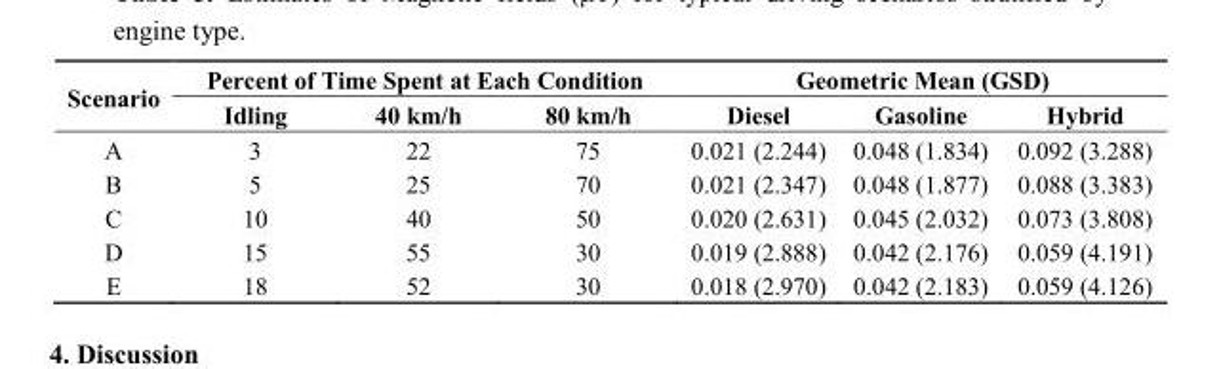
<table><thead><tr><td rowspan="2">Scenario</td><td colspan="3">Percent of Time Spent at Each Condition</td><td colspan="3">Geometric Mean (GSD)</td></tr><tr><td>Idling</td><td>40 km/h</td><td>80 km/h</td><td>Diesel</td><td>Gasoline</td><td>Hybrid</td></tr></thead><tbody><tr><td>A</td><td>3</td><td>22</td><td>75</td><td>0.021 (2.244)</td><td>0.048 (1.834)</td><td>0.092 (3.288)</td></tr><tr><td>B</td><td>5</td><td>25</td><td>70</td><td>0.021 (2.347)</td><td>0.048 (1.877)</td><td>0.088 (3.383)</td></tr><tr><td>C</td><td>10</td><td>40</td><td>50</td><td>0.020 (2.631)</td><td>0.045 (2.032)</td><td>0.073 (3.808)</td></tr><tr><td>D</td><td>15</td><td>55</td><td>30</td><td>0.019 (2.888)</td><td>0.042 (2.176)</td><td>0.059 (4.191)</td></tr><tr><td>E</td><td>18</td><td>52</td><td>30</td><td>0.018 (2.970)</td><td>0.042 (2.183)</td><td>0.059 (4.126)</td></tr></tbody></table>